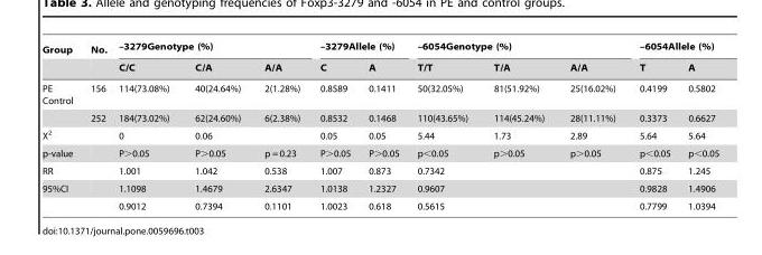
<table><thead><tr><td rowspan="2">Group</td><td rowspan="2">No.</td><td colspan="3">–3279Genotype (%)</td><td colspan="2">–3279Allele (%)</td><td colspan="3">–6054Genotype (%)</td><td colspan="2">–6054Allele (%)</td></tr><tr><td>C/C</td><td>C/A</td><td>A/A</td><td>C</td><td>A</td><td>T/T</td><td>T/A</td><td>A/A</td><td>T</td><td>A</td></tr></thead><tbody><tr><td rowspan="2">PE Control</td><td>156</td><td>114(73.08%)</td><td>40(24.64%)</td><td>2(1.28%)</td><td>0.8589</td><td>0.1411</td><td>50(32.05%)</td><td>81(51.92%)</td><td>25(16.02%)</td><td>0.4199</td><td>0.5802</td></tr><tr><td>252</td><td>184(73.02%)</td><td>62(24.60%)</td><td>6(2.38%)</td><td>0.8532</td><td>0.1468</td><td>110(43.65%)</td><td>114(45.24%)</td><td>28(11.11%)</td><td>0.3373</td><td>0.6627</td></tr><tr><td>X<sup>2</sup></td><td></td><td>0</td><td>0.06</td><td></td><td>0.05</td><td>0.05</td><td>5.44</td><td>1.73</td><td>2.89</td><td>5.64</td><td>5.64</td></tr><tr><td>p-value</td><td></td><td>P&gt;0.05</td><td>P&gt;0.05</td><td>p = 0.23</td><td>P&gt;0.05</td><td>P&gt;0.05</td><td>p&lt;0.05</td><td>p&gt;0.05</td><td>p&gt;0.05</td><td>p&lt;0.05</td><td>p&lt;0.05</td></tr><tr><td>RR</td><td></td><td>1.001</td><td>1.042</td><td>0.538</td><td>1.007</td><td>0.873</td><td>0.7342</td><td></td><td></td><td>0.875</td><td>1.245</td></tr><tr><td rowspan="2">95%CI</td><td></td><td>1.1098</td><td>1.4679</td><td>2.6347</td><td>1.0138</td><td>1.2327</td><td>0.9607</td><td></td><td></td><td>0.9828</td><td>1.4906</td></tr><tr><td></td><td>0.9012</td><td>0.7394</td><td>0.1101</td><td>1.0023</td><td>0.618</td><td>0.5615</td><td></td><td></td><td>0.7799</td><td>1.0394</td></tr></tbody></table>